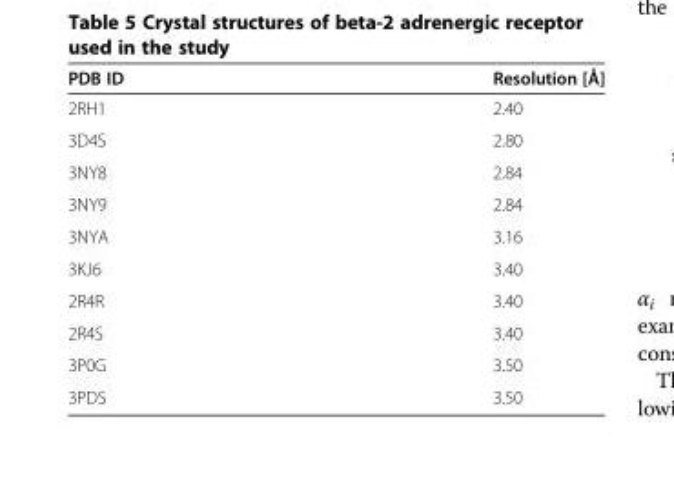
<table><thead><tr><td>PDB ID</td><td>Resolution [Å]</td></tr></thead><tbody><tr><td>2RH1</td><td>2.40</td></tr><tr><td>3D4S</td><td>2.80</td></tr><tr><td>3NY8</td><td>2.84</td></tr><tr><td>3NY9</td><td>2.84</td></tr><tr><td>3NYA</td><td>3.16</td></tr><tr><td>3KJ6</td><td>3.40</td></tr><tr><td>2R4R</td><td>3.40</td></tr><tr><td>2R4S</td><td>3.40</td></tr><tr><td>3P0G</td><td>3.50</td></tr><tr><td>3PDS</td><td>3.50</td></tr></tbody></table>